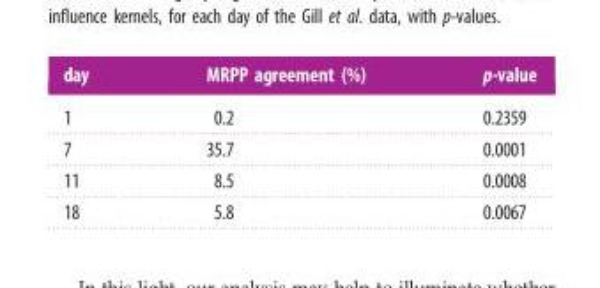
<table><thead><tr><td>day</td><td>MRPP agreement (%)</td><td>p-value</td></tr></thead><tbody><tr><td>1</td><td>0.2</td><td>0.2359</td></tr><tr><td>7</td><td>35.7</td><td>0.0001</td></tr><tr><td>11</td><td>8.5</td><td>0.0008</td></tr><tr><td>18</td><td>5.8</td><td>0.0067</td></tr></tbody></table>